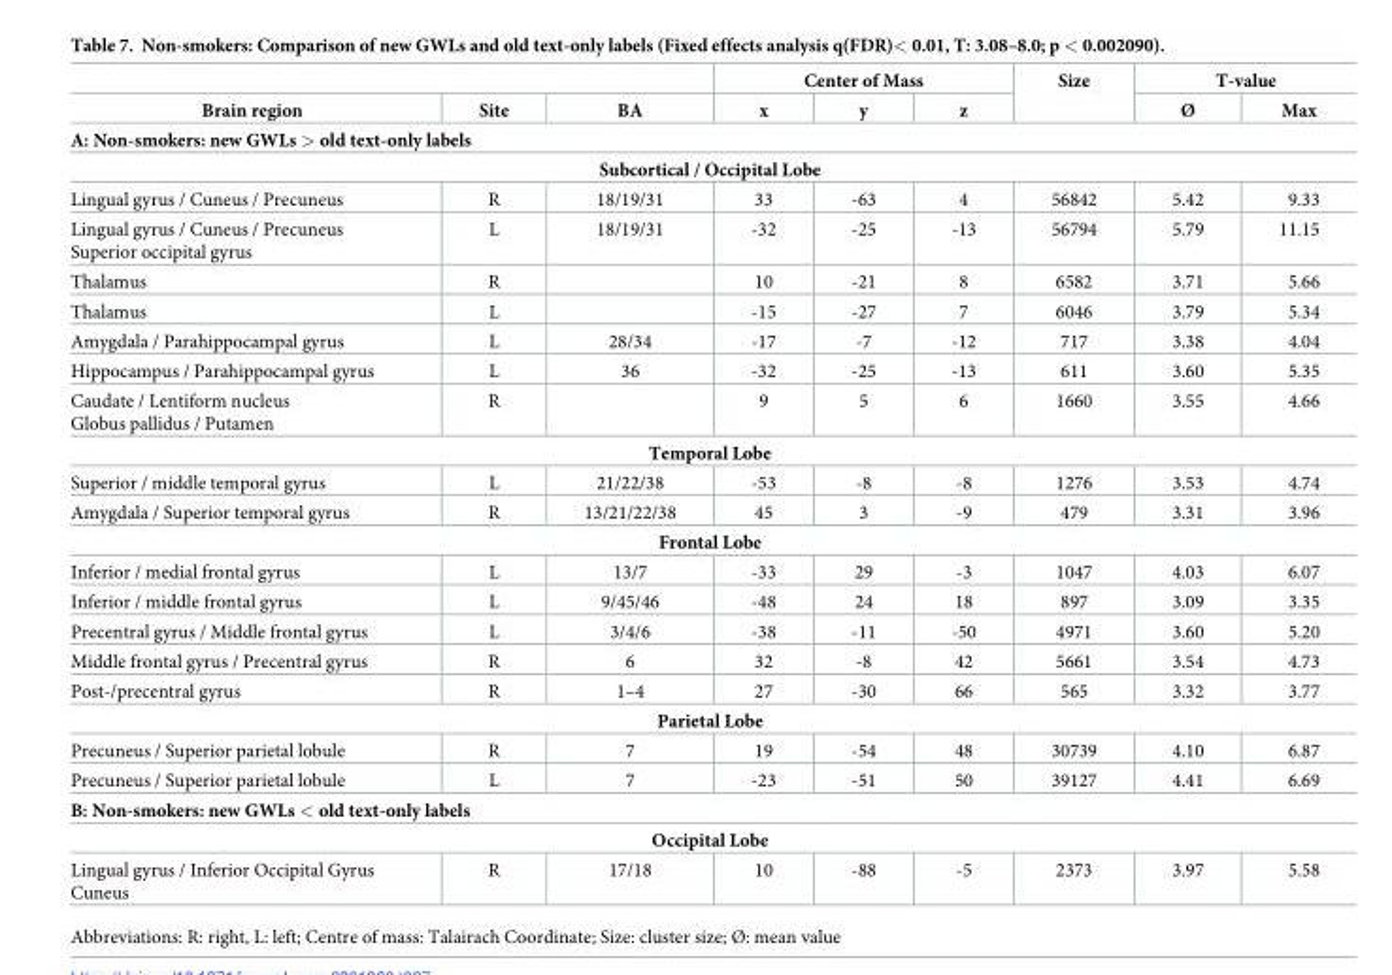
<table><thead><tr><td rowspan="2">Brain region</td><td rowspan="2">Site</td><td rowspan="2">BA</td><td colspan="3">Center of Mass</td><td rowspan="2">Size</td><td colspan="2">T-value</td></tr><tr><td>x</td><td>y</td><td>z</td><td>Ø</td><td>Max</td></tr></thead><tbody><tr><td colspan="9">A: Non-smokers: new GWLs &gt; old text-only labels</td></tr><tr><td colspan="9">Subcortical / Occipital Lobe</td></tr><tr><td>Lingual gyrus / Cuneus / Precuneus</td><td>R</td><td>18/19/31</td><td>33</td><td>-63</td><td>4</td><td>56842</td><td>5.42</td><td>9.33</td></tr><tr><td>Lingual gyrus / Cuneus / Precuneus Superior occipital gyrus</td><td>L</td><td>18/19/31</td><td>-32</td><td>-25</td><td>-13</td><td>56794</td><td>5.79</td><td>11.15</td></tr><tr><td>Thalamus</td><td>R</td><td></td><td>10</td><td>-21</td><td>8</td><td>6582</td><td>3.71</td><td>5.66</td></tr><tr><td>Thalamus</td><td>L</td><td></td><td>-15</td><td>-27</td><td>7</td><td>6046</td><td>3.79</td><td>5.34</td></tr><tr><td>Amygdala / Parahippocampal gyrus</td><td>L</td><td>28/34</td><td>-17</td><td>-7</td><td>-12</td><td>717</td><td>3.38</td><td>4.04</td></tr><tr><td>Hippocampus / Parahippocampal gyrus</td><td>L</td><td>36</td><td>-32</td><td>-25</td><td>-13</td><td>611</td><td>3.60</td><td>5.35</td></tr><tr><td>Caudate / Lentiform nucleus Globus pallidus / Putamen</td><td>R</td><td></td><td>9</td><td>5</td><td>6</td><td>1660</td><td>3.55</td><td>4.66</td></tr><tr><td colspan="9">Temporal Lobe</td></tr><tr><td>Superior / middle temporal gyrus</td><td>L</td><td>21/22/38</td><td>-53</td><td>-8</td><td>-8</td><td>1276</td><td>3.53</td><td>4.74</td></tr><tr><td>Amygdala / Superior temporal gyrus</td><td>R</td><td>13/21/22/38</td><td>45</td><td>3</td><td>-9</td><td>479</td><td>3.31</td><td>3.96</td></tr><tr><td colspan="9">Frontal Lobe</td></tr><tr><td>Inferior / medial frontal gyrus</td><td>L</td><td>13/7</td><td>-33</td><td>29</td><td>-3</td><td>1047</td><td>4.03</td><td>6.07</td></tr><tr><td>Inferior / middle frontal gyrus</td><td>L</td><td>9/45/46</td><td>-48</td><td>24</td><td>18</td><td>897</td><td>3.09</td><td>3.35</td></tr><tr><td>Precentral gyrus / Middle frontal gyrus</td><td>L</td><td>3/4/6</td><td>-38</td><td>-11</td><td>-50</td><td>4971</td><td>3.60</td><td>5.20</td></tr><tr><td>Middle frontal gyrus / Precentral gyrus</td><td>R</td><td>6</td><td>32</td><td>-8</td><td>42</td><td>5661</td><td>3.54</td><td>4.73</td></tr><tr><td>Post-/precentral gyrus</td><td>R</td><td>1–4</td><td>27</td><td>-30</td><td>66</td><td>565</td><td>3.32</td><td>3.77</td></tr><tr><td colspan="9">Parietal Lobe</td></tr><tr><td>Precuneus / Superior parietal lobule</td><td>R</td><td>7</td><td>19</td><td>-54</td><td>48</td><td>30739</td><td>4.10</td><td>6.87</td></tr><tr><td>Precuneus / Superior parietal lobule</td><td>L</td><td>7</td><td>-23</td><td>-51</td><td>50</td><td>39127</td><td>4.41</td><td>6.69</td></tr><tr><td colspan="9">B: Non-smokers: new GWLs &lt; old text-only labels</td></tr><tr><td colspan="9">Occipital Lobe</td></tr><tr><td>Lingual gyrus / Inferior Occipital Gyrus Cuneus</td><td>R</td><td>17/18</td><td>10</td><td>-88</td><td>-5</td><td>2373</td><td>3.97</td><td>5.58</td></tr></tbody></table>